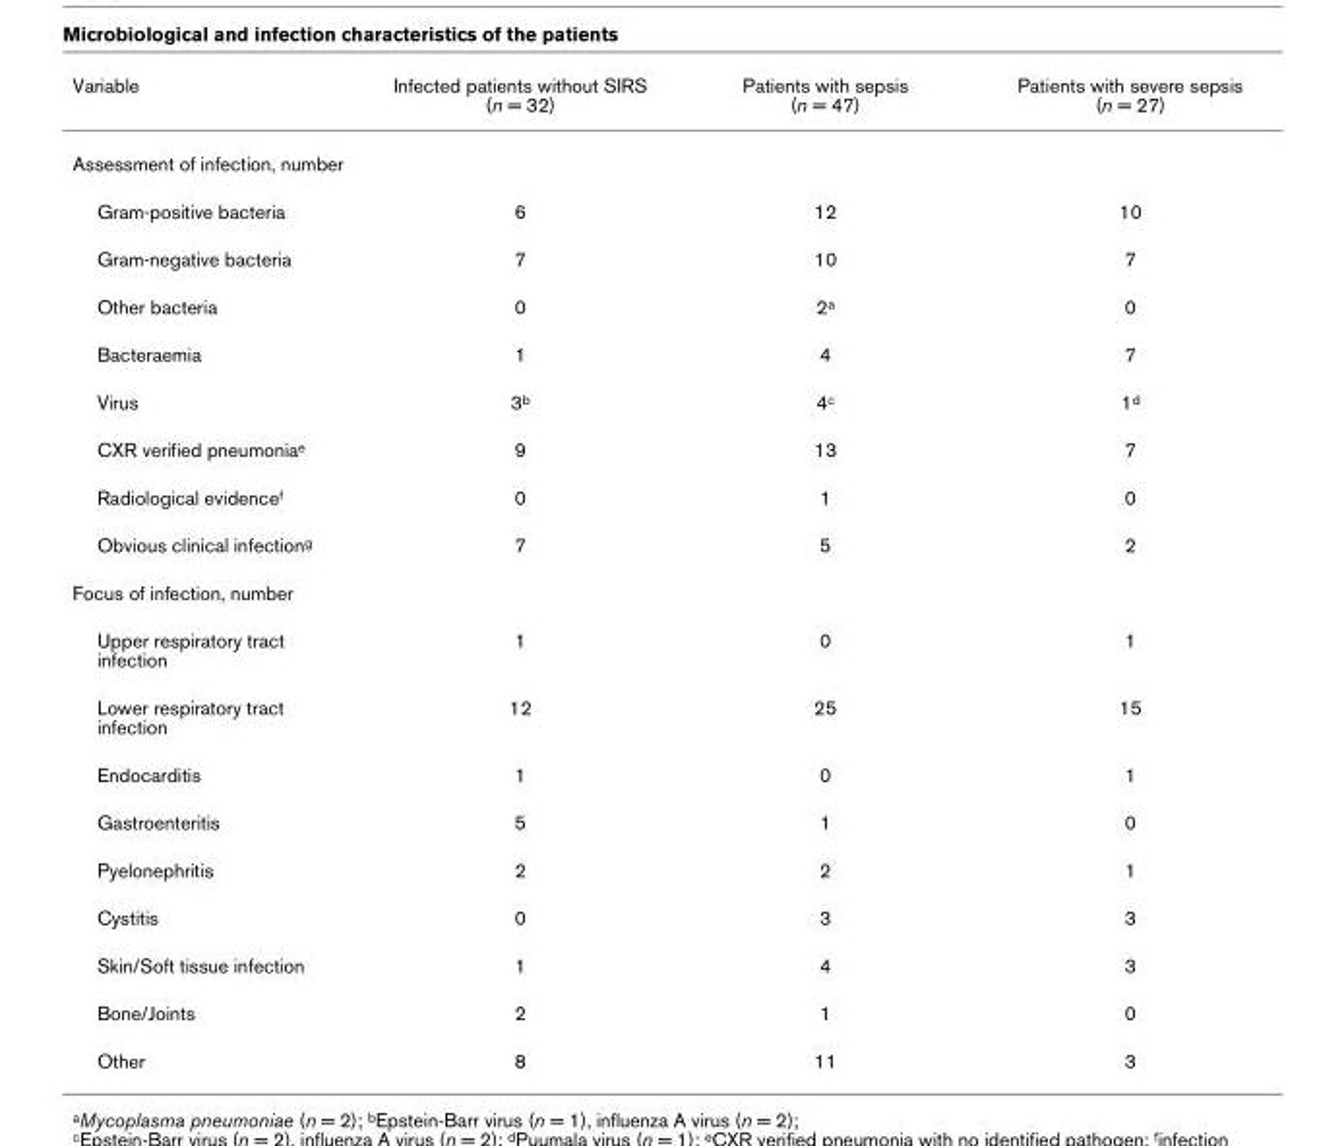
<table><thead><tr><td>Variable</td><td>Infected patients without SIRS (n = 32)</td><td>Patients with sepsis (n = 47)</td><td>Patients with severe sepsis (n = 27)</td></tr></thead><tbody><tr><td colspan="4">Assessment of infection, number</td></tr><tr><td>Gram-positive bacteria</td><td>6</td><td>12</td><td>10</td></tr><tr><td>Gram-negative bacteria</td><td>7</td><td>10</td><td>7</td></tr><tr><td>Other bacteria</td><td>0</td><td>2<sup>a</sup></td><td>0</td></tr><tr><td>Bacteraemia</td><td>1</td><td>4</td><td>7</td></tr><tr><td>Virus</td><td>3<sup>b</sup></td><td>4<sup>c</sup></td><td>1<sup>d</sup></td></tr><tr><td>CXR verified pneumonia<sup>e</sup></td><td>9</td><td>13</td><td>7</td></tr><tr><td>Radiological evidence<sup>f</sup></td><td>0</td><td>1</td><td>0</td></tr><tr><td>Obvious clinical infection<sup>g</sup></td><td>7</td><td>5</td><td>2</td></tr><tr><td colspan="4">Focus of infection, number</td></tr><tr><td>Upper respiratory tract infection</td><td>1</td><td>0</td><td>1</td></tr><tr><td>Lower respiratory tract infection</td><td>12</td><td>25</td><td>15</td></tr><tr><td>Endocarditis</td><td>1</td><td>0</td><td>1</td></tr><tr><td>Gastroenteritis</td><td>5</td><td>1</td><td>0</td></tr><tr><td>Pyelonephritis</td><td>2</td><td>2</td><td>1</td></tr><tr><td>Cystitis</td><td>0</td><td>3</td><td>3</td></tr><tr><td>Skin/Soft tissue infection</td><td>1</td><td>4</td><td>3</td></tr><tr><td>Bone/Joints</td><td>2</td><td>1</td><td>0</td></tr><tr><td>Other</td><td>8</td><td>11</td><td>3</td></tr></tbody></table>